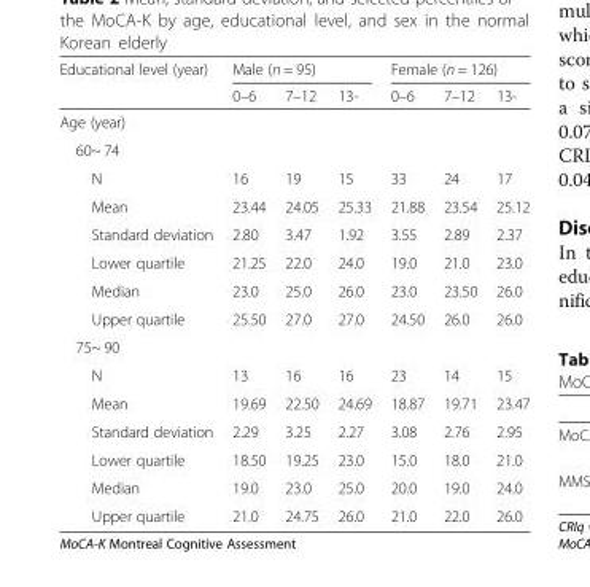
<table><thead><tr><td rowspan="2">Educational level (year)</td><td colspan="3">Male (n = 95)</td><td colspan="3">Female (n = 126)</td></tr><tr><td>0–6</td><td>7–12</td><td>13-</td><td>0–6</td><td>7–12</td><td>13-</td></tr></thead><tbody><tr><td colspan="7">Age (year)</td></tr><tr><td colspan="7">60~ 74</td></tr><tr><td>N</td><td>16</td><td>19</td><td>15</td><td>33</td><td>24</td><td>17</td></tr><tr><td>Mean</td><td>23.44</td><td>24.05</td><td>25.33</td><td>21.88</td><td>23.54</td><td>25.12</td></tr><tr><td>Standard deviation</td><td>2.80</td><td>3.47</td><td>1.92</td><td>3.55</td><td>2.89</td><td>2.37</td></tr><tr><td>Lower quartile</td><td>21.25</td><td>22.0</td><td>24.0</td><td>19.0</td><td>21.0</td><td>23.0</td></tr><tr><td>Median</td><td>23.0</td><td>25.0</td><td>26.0</td><td>23.0</td><td>23.50</td><td>26.0</td></tr><tr><td>Upper quartile</td><td>25.50</td><td>27.0</td><td>27.0</td><td>24.50</td><td>26.0</td><td>26.0</td></tr><tr><td colspan="7">75~ 90</td></tr><tr><td>N</td><td>13</td><td>16</td><td>16</td><td>23</td><td>14</td><td>15</td></tr><tr><td>Mean</td><td>19.69</td><td>22.50</td><td>24.69</td><td>18.87</td><td>19.71</td><td>23.47</td></tr><tr><td>Standard deviation</td><td>2.29</td><td>3.25</td><td>2.27</td><td>3.08</td><td>2.76</td><td>2.95</td></tr><tr><td>Lower quartile</td><td>18.50</td><td>19.25</td><td>23.0</td><td>15.0</td><td>18.0</td><td>21.0</td></tr><tr><td>Median</td><td>19.0</td><td>23.0</td><td>25.0</td><td>20.0</td><td>19.0</td><td>24.0</td></tr><tr><td>Upper quartile</td><td>21.0</td><td>24.75</td><td>26.0</td><td>21.0</td><td>22.0</td><td>26.0</td></tr></tbody></table>